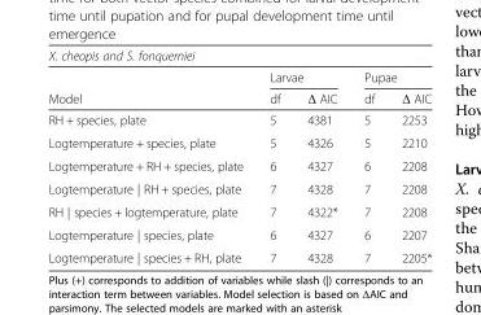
<table><thead><tr><td colspan="5">X. cheopis and S. fonquerniei</td></tr><tr><td rowspan="2">Model</td><td colspan="2">Larvae</td><td colspan="2">Pupae</td></tr><tr><td>df</td><td>Δ AIC</td><td>df</td><td>Δ AIC</td></tr></thead><tbody><tr><td>RH + species, plate</td><td>5</td><td>4381</td><td>5</td><td>2253</td></tr><tr><td>Logtemperature + species, plate</td><td>5</td><td>4326</td><td>5</td><td>2210</td></tr><tr><td>Logtemperature + RH + species, plate</td><td>6</td><td>4327</td><td>6</td><td>2208</td></tr><tr><td>Logtemperature | RH + species, plate</td><td>7</td><td>4328</td><td>7</td><td>2208</td></tr><tr><td>RH | species + logtemperature, plate</td><td>7</td><td>4322*</td><td>7</td><td>2208</td></tr><tr><td>Logtemperature | species, plate</td><td>6</td><td>4327</td><td>6</td><td>2207</td></tr><tr><td>Logtemperature | species + RH, plate</td><td>7</td><td>4328</td><td>7</td><td>2205*</td></tr></tbody></table>